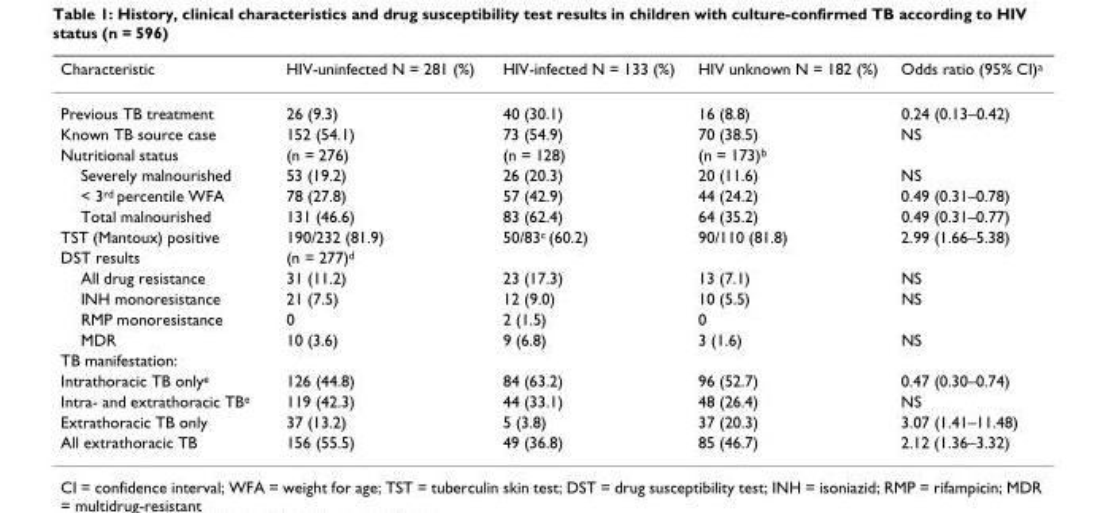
<table><thead><tr><td>Characteristic</td><td>HIV-uninfected N = 281 (%)</td><td>HIV-infected N = 133 (%)</td><td>HIV unknown N = 182 (%)</td><td>Odds ratio (95% CI)<sup>a</sup></td></tr></thead><tbody><tr><td>Previous TB treatment</td><td>26 (9.3)</td><td>40 (30.1)</td><td>16 (8.8)</td><td>0.24 (0.13–0.42)</td></tr><tr><td>Known TB source case</td><td>152 (54.1)</td><td>73 (54.9)</td><td>70 (38.5)</td><td>NS</td></tr><tr><td>Nutritional status</td><td>(n = 276)</td><td>(n = 128)</td><td>(n = 173)<sup>b</sup></td><td></td></tr><tr><td>Severely malnourished</td><td>53 (19.2)</td><td>26 (20.3)</td><td>20 (11.6)</td><td>NS</td></tr><tr><td>&lt; 3<sup>rd</sup> percentile WFA</td><td>78 (27.8)</td><td>57 (42.9)</td><td>44 (24.2)</td><td>0.49 (0.31–0.78)</td></tr><tr><td>Total malnourished</td><td>131 (46.6)</td><td>83 (62.4)</td><td>64 (35.2)</td><td>0.49 (0.31–0.77)</td></tr><tr><td>TST (Mantoux) positive</td><td>190/232 (81.9)</td><td>50/83<sup>c</sup> (60.2)</td><td>90/110 (81.8)</td><td>2.99 (1.66–5.38)</td></tr><tr><td>DST results</td><td>(n = 277)<sup>d</sup></td><td></td><td></td><td></td></tr><tr><td>All drug resistance</td><td>31 (11.2)</td><td>23 (17.3)</td><td>13 (7.1)</td><td>NS</td></tr><tr><td>INH monoresistance</td><td>21 (7.5)</td><td>12 (9.0)</td><td>10 (5.5)</td><td>NS</td></tr><tr><td>RMP monoresistance</td><td>0</td><td>2 (1.5)</td><td>0</td><td></td></tr><tr><td>MDR</td><td>10 (3.6)</td><td>9 (6.8)</td><td>3 (1.6)</td><td>NS</td></tr><tr><td colspan="5">TB manifestation:</td></tr><tr><td>Intrathoracic TB only<sup>e</sup></td><td>126 (44.8)</td><td>84 (63.2)</td><td>96 (52.7)</td><td>0.47 (0.30–0.74)</td></tr><tr><td>Intra- and extrathoracic TB<sup>e</sup></td><td>119 (42.3)</td><td>44 (33.1)</td><td>48 (26.4)</td><td>NS</td></tr><tr><td>Extrathoracic TB only</td><td>37 (13.2)</td><td>5 (3.8)</td><td>37 (20.3)</td><td>3.07 (1.41–11.48)</td></tr><tr><td>All extrathoracic TB</td><td>156 (55.5)</td><td>49 (36.8)</td><td>85 (46.7)</td><td>2.12 (1.36–3.32)</td></tr></tbody></table>